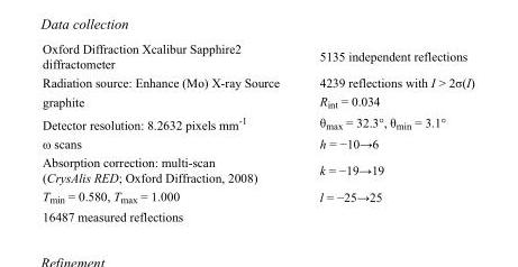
<table><tbody><tr><td>Oxford Diffraction Xcalibur Sapphire2 diffractometer</td><td>5135 independent reflections</td></tr><tr><td>Radiation source: Enhance (Mo) X-ray Source</td><td>4239 reflections with I &gt; 2σ(I)</td></tr><tr><td>graphite</td><td>R<sub>int</sub> = 0.034</td></tr><tr><td>Detector resolution: 8.2632 pixels mm<sup>-1</sup></td><td>θ<sub>max</sub> = 32.3°, θ<sub>min</sub> = 3.1°</td></tr><tr><td>ω scans</td><td>h = −10→6</td></tr><tr><td>Absorption correction: multi-scan (CrysAlis RED; Oxford Diffraction, 2008)</td><td>k = −19→19</td></tr><tr><td>T<sub>min</sub> = 0.580, T<sub>max</sub> = 1.000</td><td>l = −25→25</td></tr><tr><td>16487 measured reflections</td><td></td></tr></tbody></table>